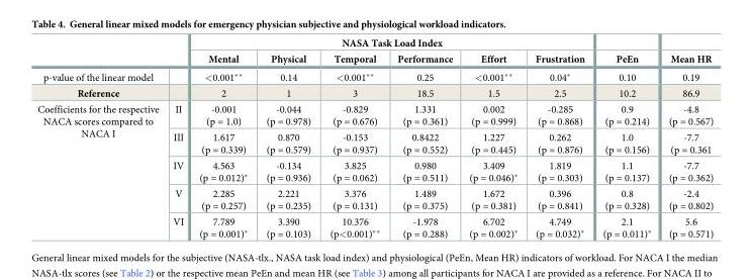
<table><thead><tr><td rowspan="2"></td><td rowspan="2"></td><td colspan="6">NASA Task Load Index</td><td rowspan="2">PeEn</td><td rowspan="2">Mean HR</td></tr><tr><td>Mental</td><td>Physical</td><td>Temporal</td><td>Performance</td><td>Effort</td><td>Frustration</td></tr></thead><tbody><tr><td>p-value of the linear model</td><td></td><td>&lt;0.001**</td><td>0.14</td><td>&lt;0.001**</td><td>0.25</td><td>&lt;0.001**</td><td>0.04*</td><td>0.10</td><td>0.19</td></tr><tr><td>Reference</td><td></td><td>2</td><td>1</td><td>3</td><td>18.5</td><td>1.5</td><td>2.5</td><td>10.2</td><td>86.9</td></tr><tr><td rowspan="5">Coefficients for the respective NACA scores compared to NACA I</td><td>II</td><td>-0.001 (p = 1.0)</td><td>-0.044 (p = 0.978)</td><td>-0.829 (p = 0.676)</td><td>1.331 (p = 0.361)</td><td>0.002 (p = 0.999)</td><td>-0.285 (p = 0.868)</td><td>0.9 (p = 0.214)</td><td>-4.8 (p = 0.567)</td></tr><tr><td>III</td><td>1.617 (p = 0.339)</td><td>0.870 (p = 0.579)</td><td>-0.153 (p = 0.937)</td><td>0.8422 (p = 0.552)</td><td>1.227 (p = 0.445)</td><td>0.262 (p = 0.876)</td><td>1.0 (p = 0.156)</td><td>-7.7 (p = 0.361</td></tr><tr><td>IV</td><td>4.563 (p = 0.012)*</td><td>-0.134 (p = 0.936)</td><td>3.825 (p = 0.062)</td><td>0.980 (p = 0.511)</td><td>3.409 (p = 0.046)*</td><td>1.819 (p = 0.303)</td><td>1.1 (p = 0.137)</td><td>-7.7 (p = 0.362)</td></tr><tr><td>V</td><td>2.285 (p = 0.257)</td><td>2.221 (p = 0.235)</td><td>3.376 (p = 0.131)</td><td>1.489 (p = 0.375)</td><td>1.672 (p = 0.381)</td><td>0.396 (p = 0.841)</td><td>0.8 (p = 0.328)</td><td>-2.4 (p = 0.802)</td></tr><tr><td>VI</td><td>7.789 (p = 0.001)*</td><td>3.390 (p = 0.103)</td><td>10.376 (p&lt;0.001)**</td><td>-1.978 (p = 0.288)</td><td>6.702 (p = 0.002)*</td><td>4.749 (p = 0.032)*</td><td>2.1 (p = 0.011)*</td><td>5.6 (p = 0.571)</td></tr></tbody></table>